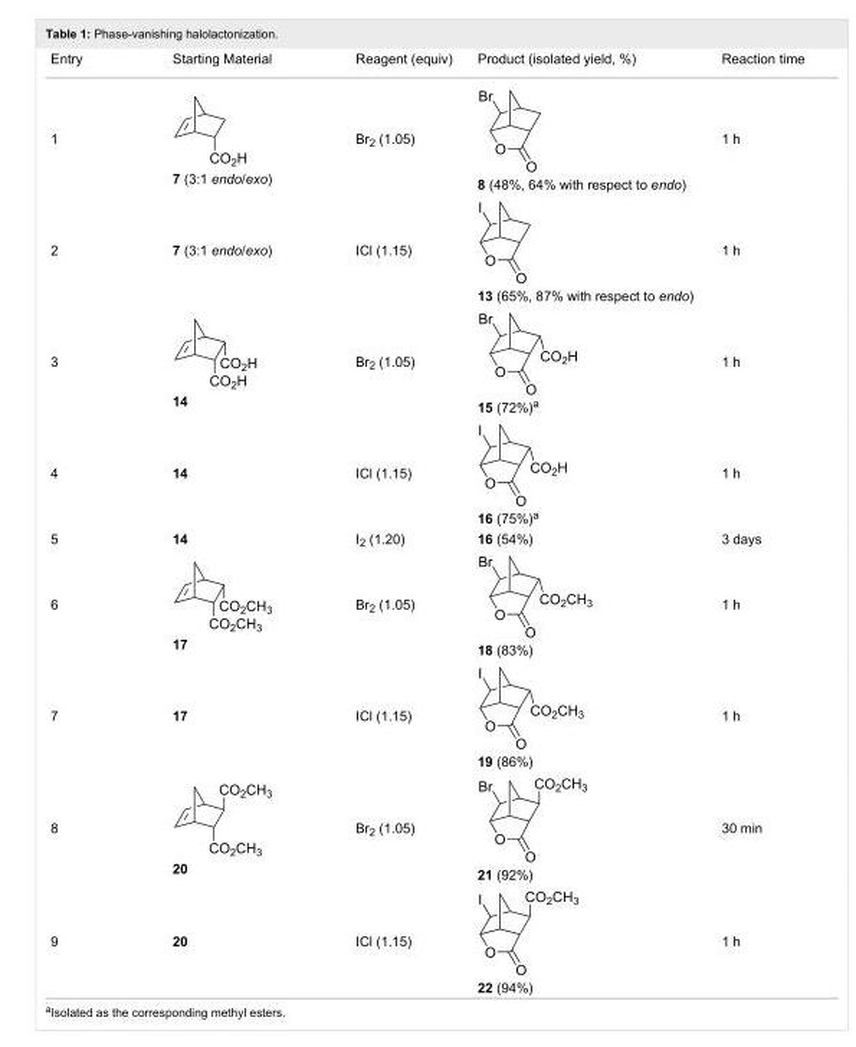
<table><tbody><tr><td>Entry</td><td>Starting Material</td><td>Reagent (equiv)</td><td>Product (isolated yield, %)</td><td>Reaction time</td></tr><tr><td>1</td><td>7 (3:1 endo/exo)</td><td>Br<sub>2</sub> (1.05)</td><td>8 (48%, 64% with respect to endo)</td><td>1 h</td></tr><tr><td>2</td><td>7 (3:1 endo/exo)</td><td>ICl (1.15)</td><td>13 (65%, 87% with respect to endo)</td><td>1 h</td></tr><tr><td>3</td><td>14</td><td>Br<sub>2</sub> (1.05)</td><td>15 (72%)a</td><td>1 h</td></tr><tr><td>4</td><td>14</td><td>ICl (1.15)</td><td>16 (75%)a</td><td>1 h</td></tr><tr><td>5</td><td>14</td><td>I<sub>2</sub> (1.20)</td><td>16 (54%)</td><td>3 days</td></tr><tr><td>6</td><td>17</td><td>Br<sub>2</sub> (1.05)</td><td>18 (83%)</td><td>1 h</td></tr><tr><td>7</td><td>17</td><td>ICl (1.15)</td><td>19 (86%)</td><td>1 h</td></tr><tr><td>8</td><td>20</td><td>Br<sub>2</sub> (1.05)</td><td>21 (92%)</td><td>30 min</td></tr><tr><td>9</td><td>20</td><td>ICl (1.15)</td><td>22 (94%)</td><td>1 h</td></tr></tbody></table>